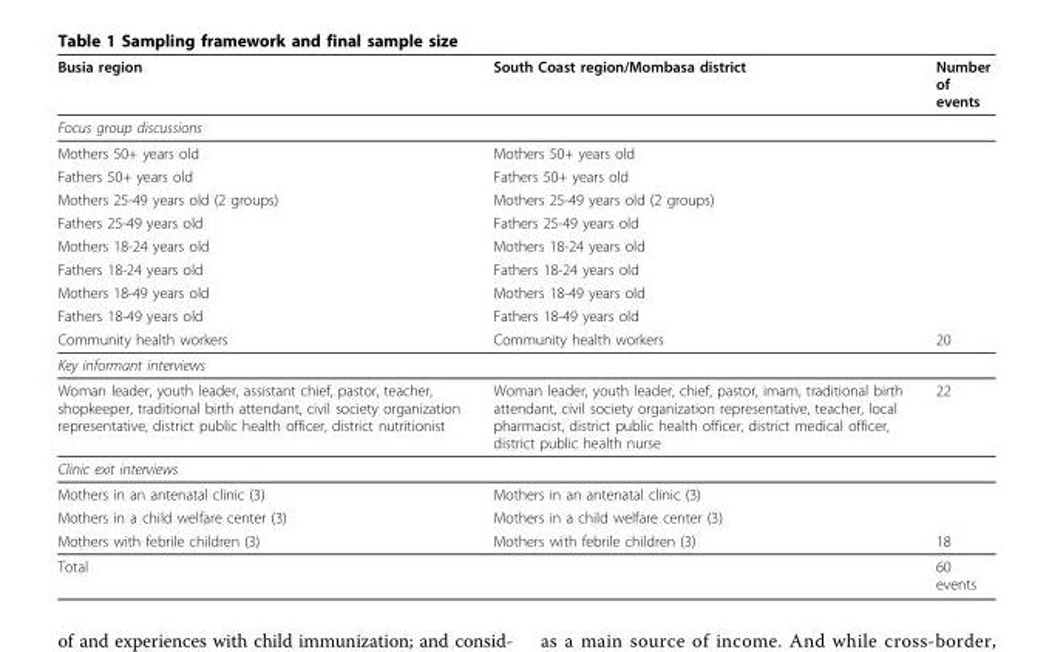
<table><thead><tr><td>Busia region</td><td>South Coast region/Mombasa district</td><td>Number of events</td></tr></thead><tbody><tr><td colspan="3">Focus group discussions</td></tr><tr><td>Mothers 50+ years old</td><td>Mothers 50+ years old</td><td></td></tr><tr><td>Fathers 50+ years old</td><td>Fathers 50+ years old</td><td></td></tr><tr><td>Mothers 25-49 years old (2 groups)</td><td>Mothers 25-49 years old (2 groups)</td><td></td></tr><tr><td>Fathers 25-49 years old</td><td>Fathers 25-49 years old</td><td></td></tr><tr><td>Mothers 18-24 years old</td><td>Mothers 18-24 years old</td><td></td></tr><tr><td>Fathers 18-24 years old</td><td>Fathers 18-24 years old</td><td></td></tr><tr><td>Mothers 18-49 years old</td><td>Mothers 18-49 years old</td><td></td></tr><tr><td>Fathers 18-49 years old</td><td>Fathers 18-49 years old</td><td></td></tr><tr><td>Community health workers</td><td>Community health workers</td><td>20</td></tr><tr><td colspan="3">Key informant interviews</td></tr><tr><td>Woman leader, youth leader, assistant chief, pastor, teacher, shopkeeper, traditional birth attendant, civil society organization representative, district public health officer, district nutritionist</td><td>Woman leader, youth leader, chief, pastor, imam, traditional birth attendant, civil society organization representative, teacher, local pharmacist, district public health officer, district medical officer, district public health nurse</td><td>22</td></tr><tr><td colspan="3">Clinic exit interviews</td></tr><tr><td>Mothers in an antenatal clinic (3)</td><td>Mothers in an antenatal clinic (3)</td><td></td></tr><tr><td>Mothers in a child welfare center (3)</td><td>Mothers in a child welfare center (3)</td><td></td></tr><tr><td>Mothers with febrile children (3)</td><td>Mothers with febrile children (3)</td><td>18</td></tr><tr><td colspan="2">Total</td><td>60 events</td></tr></tbody></table>